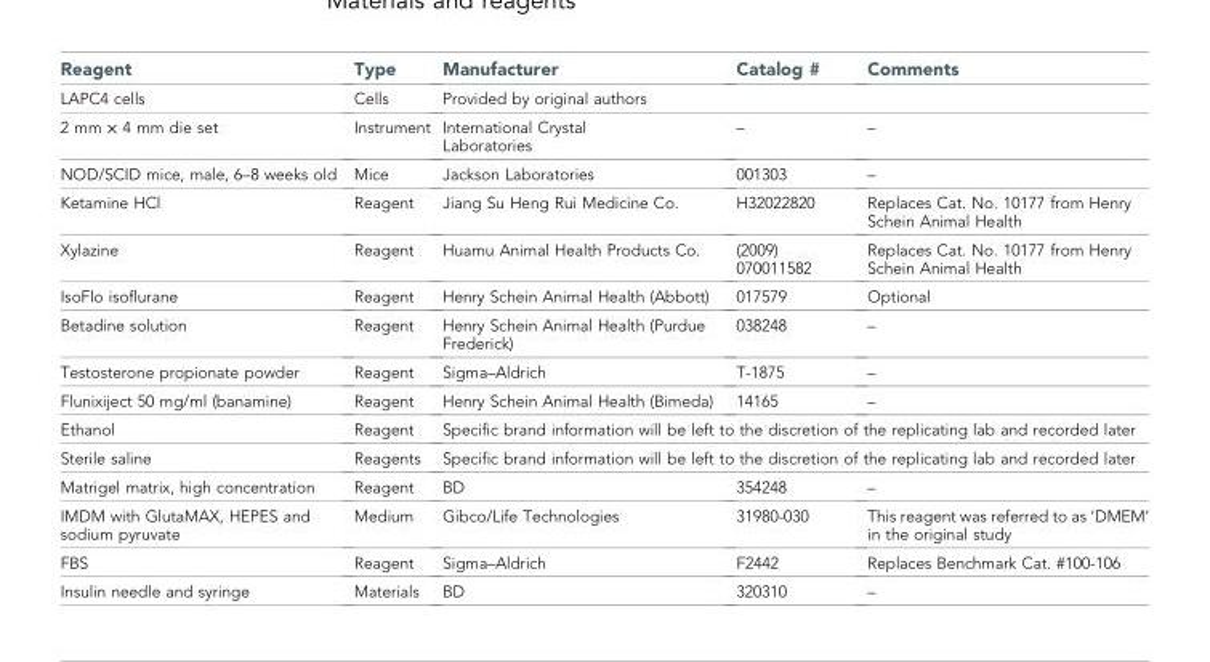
<table><thead><tr><td>Reagent</td><td>Type</td><td>Manufacturer</td><td>Catalog #</td><td>Comments</td></tr></thead><tbody><tr><td>LAPC4 cells</td><td>Cells</td><td colspan="3">Provided by original authors</td></tr><tr><td>2 mm × 4 mm die set</td><td>Instrument</td><td>International Crystal Laboratories</td><td>–</td><td>–</td></tr><tr><td>NOD/SCID mice, male, 6–8 weeks old</td><td>Mice</td><td>Jackson Laboratories</td><td>001303</td><td>–</td></tr><tr><td>Ketamine HCl</td><td>Reagent</td><td>Jiang Su Heng Rui Medicine Co.</td><td>H32022820</td><td>Replaces Cat. No. 10177 from Henry Schein Animal Health</td></tr><tr><td>Xylazine</td><td>Reagent</td><td>Huamu Animal Health Products Co.</td><td>(2009) 070011582</td><td>Replaces Cat. No. 10177 from Henry Schein Animal Health</td></tr><tr><td>IsoFlo isoflurane</td><td>Reagent</td><td>Henry Schein Animal Health (Abbott)</td><td>017579</td><td>Optional</td></tr><tr><td>Betadine solution</td><td>Reagent</td><td>Henry Schein Animal Health (Purdue Frederick)</td><td>038248</td><td>–</td></tr><tr><td>Testosterone propionate powder</td><td>Reagent</td><td>Sigma–Aldrich</td><td>T-1875</td><td>–</td></tr><tr><td>Flunixiject 50 mg/ml (banamine)</td><td>Reagent</td><td>Henry Schein Animal Health (Bimeda)</td><td>14165</td><td>–</td></tr><tr><td>Ethanol</td><td>Reagent</td><td colspan="3">Specific brand information will be left to the discretion of the replicating lab and recorded later</td></tr><tr><td>Sterile saline</td><td>Reagents</td><td colspan="3">Specific brand information will be left to the discretion of the replicating lab and recorded later</td></tr><tr><td>Matrigel matrix, high concentration</td><td>Reagent</td><td>BD</td><td>354248</td><td>–</td></tr><tr><td>IMDM with GlutaMAX, HEPES and sodium pyruvate</td><td>Medium</td><td>Gibco/Life Technologies</td><td>31980-030</td><td>This reagent was referred to as ‘DMEM’ in the original study</td></tr><tr><td>FBS</td><td>Reagent</td><td>Sigma–Aldrich</td><td>F2442</td><td>Replaces Benchmark Cat. #100-106</td></tr><tr><td>Insulin needle and syringe</td><td>Materials</td><td>BD</td><td>320310</td><td>–</td></tr></tbody></table>